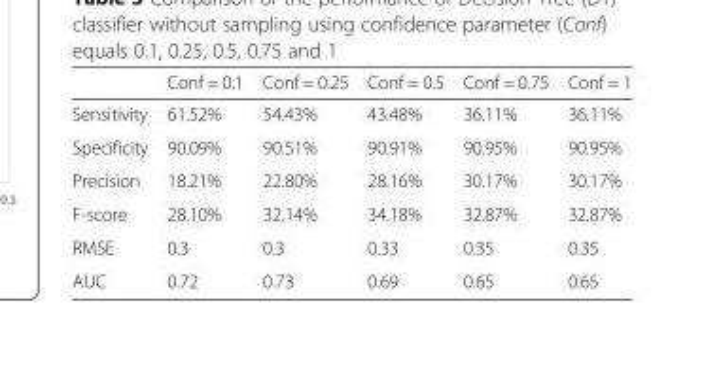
<table><thead><tr><td></td><td>Conf = 0.1</td><td>Conf = 0.25</td><td>Conf = 0.5</td><td>Conf = 0.75</td><td>Conf = 1</td></tr></thead><tbody><tr><td>Sensitivity</td><td>61.52%</td><td>54.43%</td><td>43.48%</td><td>36.11%</td><td>36.11%</td></tr><tr><td>Specificity</td><td>90.09%</td><td>90.51%</td><td>90.91%</td><td>90.95%</td><td>90.95%</td></tr><tr><td>Precision</td><td>18.21%</td><td>22.80%</td><td>28.16%</td><td>30.17%</td><td>30.17%</td></tr><tr><td>F-score</td><td>28.10%</td><td>32.14%</td><td>34.18%</td><td>32.87%</td><td>32.87%</td></tr><tr><td>RMSE</td><td>0.3</td><td>0.3</td><td>0.33</td><td>0.35</td><td>0.35</td></tr><tr><td>AUC</td><td>0.72</td><td>0.73</td><td>0.69</td><td>0.65</td><td>0.65</td></tr></tbody></table>